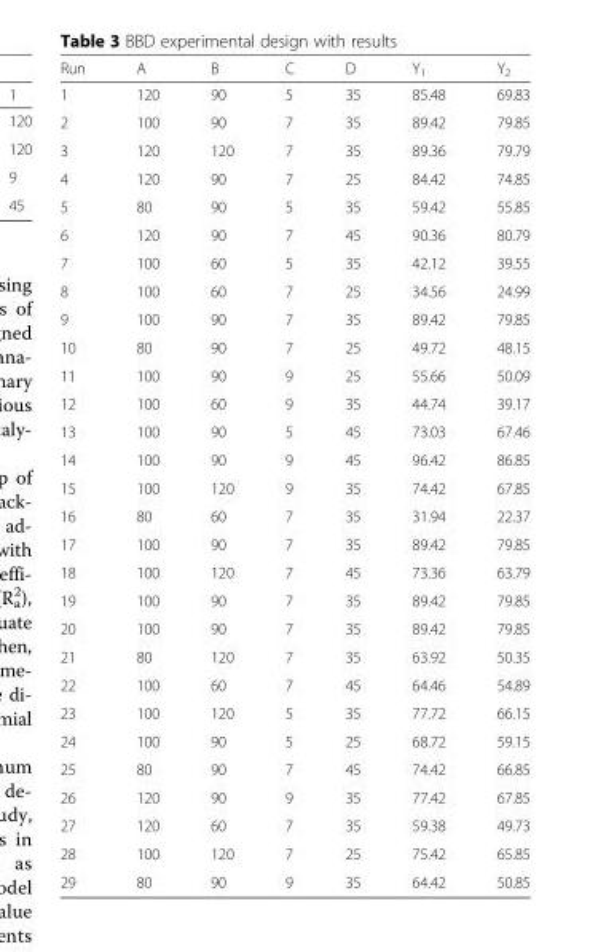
<table><thead><tr><td>Run</td><td>A</td><td>B</td><td>C</td><td>D</td><td>Y<sub>1</sub></td><td>Y<sub>2</sub></td></tr></thead><tbody><tr><td>1</td><td>120</td><td>90</td><td>5</td><td>35</td><td>85.48</td><td>69.83</td></tr><tr><td>2</td><td>100</td><td>90</td><td>7</td><td>35</td><td>89.42</td><td>79.85</td></tr><tr><td>3</td><td>120</td><td>120</td><td>7</td><td>35</td><td>89.36</td><td>79.79</td></tr><tr><td>4</td><td>120</td><td>90</td><td>7</td><td>25</td><td>84.42</td><td>74.85</td></tr><tr><td>5</td><td>80</td><td>90</td><td>5</td><td>35</td><td>59.42</td><td>55.85</td></tr><tr><td>6</td><td>120</td><td>90</td><td>7</td><td>45</td><td>90.36</td><td>80.79</td></tr><tr><td>7</td><td>100</td><td>60</td><td>5</td><td>35</td><td>42.12</td><td>39.55</td></tr><tr><td>8</td><td>100</td><td>60</td><td>7</td><td>25</td><td>34.56</td><td>24.99</td></tr><tr><td>9</td><td>100</td><td>90</td><td>7</td><td>35</td><td>89.42</td><td>79.85</td></tr><tr><td>10</td><td>80</td><td>90</td><td>7</td><td>25</td><td>49.72</td><td>48.15</td></tr><tr><td>11</td><td>100</td><td>90</td><td>9</td><td>25</td><td>55.66</td><td>50.09</td></tr><tr><td>12</td><td>100</td><td>60</td><td>9</td><td>35</td><td>44.74</td><td>39.17</td></tr><tr><td>13</td><td>100</td><td>90</td><td>5</td><td>45</td><td>73.03</td><td>67.46</td></tr><tr><td>14</td><td>100</td><td>90</td><td>9</td><td>45</td><td>96.42</td><td>86.85</td></tr><tr><td>15</td><td>100</td><td>120</td><td>9</td><td>35</td><td>74.42</td><td>67.85</td></tr><tr><td>16</td><td>80</td><td>60</td><td>7</td><td>35</td><td>31.94</td><td>22.37</td></tr><tr><td>17</td><td>100</td><td>90</td><td>7</td><td>35</td><td>89.42</td><td>79.85</td></tr><tr><td>18</td><td>100</td><td>120</td><td>7</td><td>45</td><td>73.36</td><td>63.79</td></tr><tr><td>19</td><td>100</td><td>90</td><td>7</td><td>35</td><td>89.42</td><td>79.85</td></tr><tr><td>20</td><td>100</td><td>90</td><td>7</td><td>35</td><td>89.42</td><td>79.85</td></tr><tr><td>21</td><td>80</td><td>120</td><td>7</td><td>35</td><td>63.92</td><td>50.35</td></tr><tr><td>22</td><td>100</td><td>60</td><td>7</td><td>45</td><td>64.46</td><td>54.89</td></tr><tr><td>23</td><td>100</td><td>120</td><td>5</td><td>35</td><td>77.72</td><td>66.15</td></tr><tr><td>24</td><td>100</td><td>90</td><td>5</td><td>25</td><td>68.72</td><td>59.15</td></tr><tr><td>25</td><td>80</td><td>90</td><td>7</td><td>45</td><td>74.42</td><td>66.85</td></tr><tr><td>26</td><td>120</td><td>90</td><td>9</td><td>35</td><td>77.42</td><td>67.85</td></tr><tr><td>27</td><td>120</td><td>60</td><td>7</td><td>35</td><td>59.38</td><td>49.73</td></tr><tr><td>28</td><td>100</td><td>120</td><td>7</td><td>25</td><td>75.42</td><td>65.85</td></tr><tr><td>29</td><td>80</td><td>90</td><td>9</td><td>35</td><td>64.42</td><td>50.85</td></tr></tbody></table>